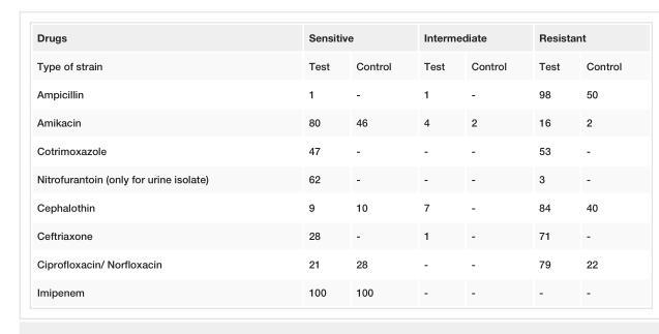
<table><tbody><tr><td>Drugs</td><td colspan="2">Sensitive</td><td colspan="2">Intermediate</td><td colspan="2">Resistant</td></tr><tr><td>Type of strain</td><td>Test</td><td>Control</td><td>Test</td><td>Control</td><td>Test</td><td>Control</td></tr><tr><td>Ampicillin</td><td>1</td><td>-</td><td>1</td><td>-</td><td>98</td><td>50</td></tr><tr><td>Amikacin</td><td>80</td><td>46</td><td>4</td><td>2</td><td>16</td><td>2</td></tr><tr><td>Cotrimoxazole</td><td>47</td><td>-</td><td>-</td><td>-</td><td>53</td><td>-</td></tr><tr><td>Nitrofurantoin (only for urine isolate)</td><td>62</td><td>-</td><td>-</td><td>-</td><td>3</td><td>-</td></tr><tr><td>Cephalothin</td><td>9</td><td>10</td><td>7</td><td>-</td><td>84</td><td>40</td></tr><tr><td>Ceftriaxone</td><td>28</td><td>-</td><td>1</td><td>-</td><td>71</td><td>-</td></tr><tr><td>Ciprofloxacin/ Norfloxacin</td><td>21</td><td>28</td><td>-</td><td>-</td><td>79</td><td>22</td></tr><tr><td>Imipenem</td><td>100</td><td>100</td><td>-</td><td>-</td><td>-</td><td>-</td></tr></tbody></table>